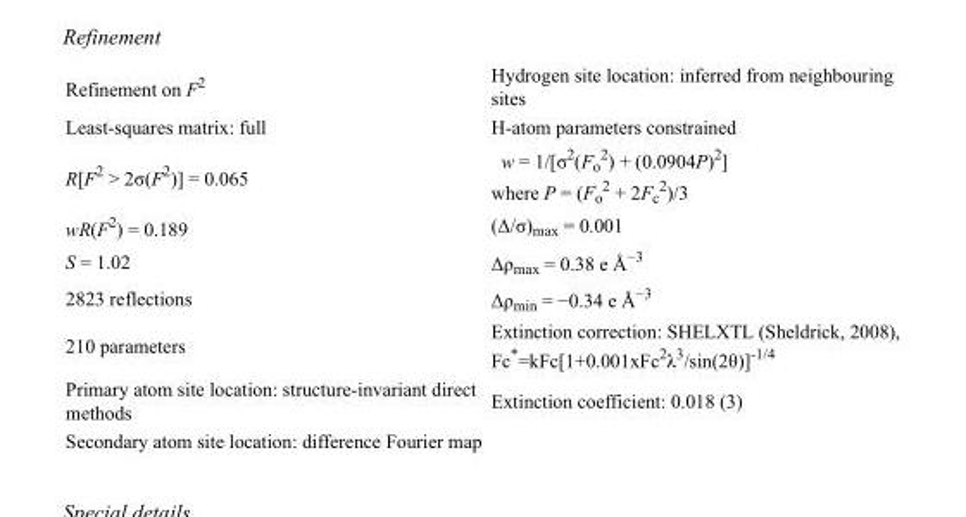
<table><tbody><tr><td>Refinement on F<sup>2</sup></td><td>Hydrogen site location: inferred from neighbouring sites</td></tr><tr><td>Least-squares matrix: full</td><td>H-atom parameters constrained</td></tr><tr><td>R[F<sup>2</sup> &gt; 2σ(F<sup>2</sup>)] = 0.065</td><td>w = 1/[σ<sup>2</sup>(F<sub>o</sub> <sup>2</sup>) + (0.0904P)<sup>2</sup>] where P = (F<sub>o</sub> <sup>2</sup> + 2F<sub>c</sub> <sup>2</sup>)/3</td></tr><tr><td>wR(F<sup>2</sup>) = 0.189</td><td>(Δ/σ)<sub>max</sub> = 0.001</td></tr><tr><td>S = 1.02</td><td>Δρ<sub>max</sub> = 0.38 e Å<sup>−3</sup></td></tr><tr><td>2823 reflections</td><td>Δρ<sub>min</sub> = −0.34 e Å<sup>−3</sup></td></tr><tr><td>210 parameters</td><td>Extinction correction: SHELXTL (Sheldrick, 2008), Fc*=kFc[1+0.001xFc<sup>2</sup>λ<sup>3</sup>/sin(2θ)]<sup>-1/4</sup></td></tr><tr><td>Primary atom site location: structure-invariant direct methods</td><td>Extinction coefficient: 0.018 (3)</td></tr><tr><td>Secondary atom site location: difference Fourier map</td><td></td></tr></tbody></table>